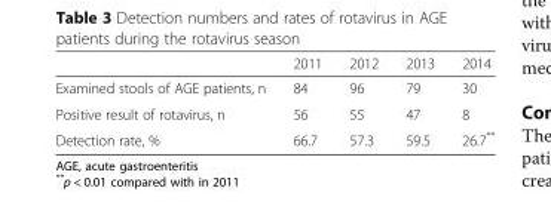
<table><thead><tr><td></td><td>2011</td><td>2012</td><td>2013</td><td>2014</td></tr></thead><tbody><tr><td>Examined stools of AGE patients, n</td><td>84</td><td>96</td><td>79</td><td>30</td></tr><tr><td>Positive result of rotavirus, n</td><td>56</td><td>55</td><td>47</td><td>8</td></tr><tr><td>Detection rate, %</td><td>66.7</td><td>57.3</td><td>59.5</td><td>26.7**</td></tr></tbody></table>